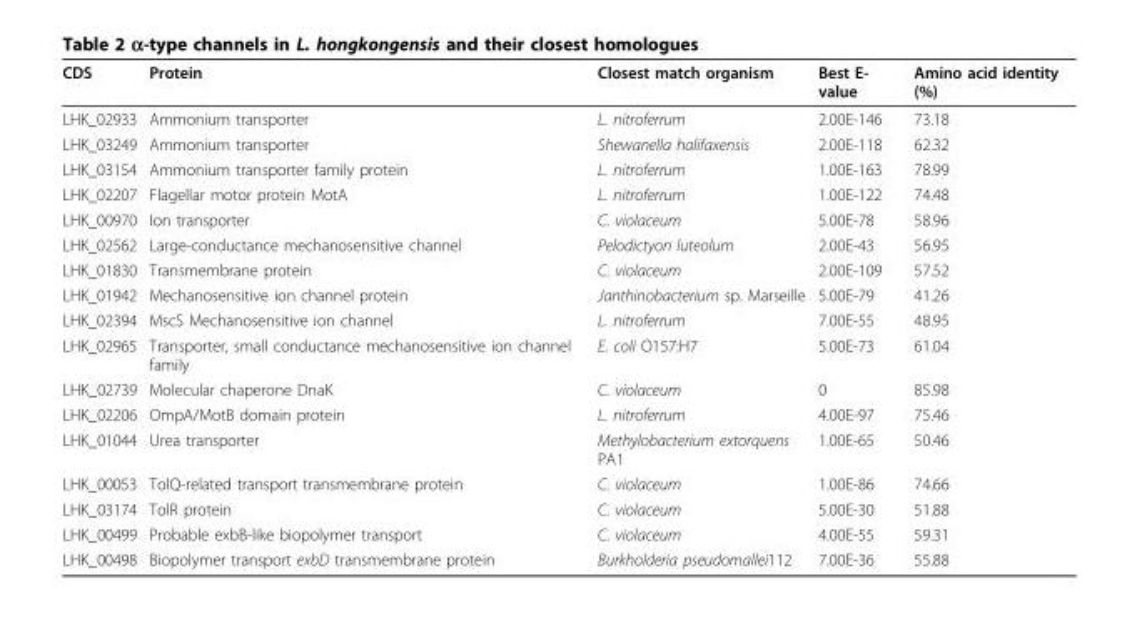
<table><thead><tr><td>CDS</td><td>Protein</td><td>Closest match organism</td><td>Best E- value</td><td>Amino acid identity (%)</td></tr></thead><tbody><tr><td>LHK_02933</td><td>Ammonium transporter</td><td>L. nitroferrum</td><td>2.00E-146</td><td>73.18</td></tr><tr><td>LHK_03249</td><td>Ammonium transporter</td><td>Shewanella halifaxensis</td><td>2.00E-118</td><td>62.32</td></tr><tr><td>LHK_03154</td><td>Ammonium transporter family protein</td><td>L. nitroferrum</td><td>1.00E-163</td><td>78.99</td></tr><tr><td>LHK_02207</td><td>Flagellar motor protein MotA</td><td>L. nitroferrum</td><td>1.00E-122</td><td>74.48</td></tr><tr><td>LHK_00970</td><td>Ion transporter</td><td>C. violaceum</td><td>5.00E-78</td><td>58.96</td></tr><tr><td>LHK_02562</td><td>Large-conductance mechanosensitive channel</td><td>Pelodictyon luteolum</td><td>2.00E-43</td><td>56.95</td></tr><tr><td>LHK_01830</td><td>Transmembrane protein</td><td>C. violaceum</td><td>2.00E-109</td><td>57.52</td></tr><tr><td>LHK_01942</td><td>Mechanosensitive ion channel protein</td><td>Janthinobacterium sp. Marseille</td><td>5.00E-79</td><td>41.26</td></tr><tr><td>LHK_02394</td><td>MscS Mechanosensitive ion channel</td><td>L. nitroferrum</td><td>7.00E-55</td><td>48.95</td></tr><tr><td>LHK_02965</td><td>Transporter, small conductance mechanosensitive ion channel family</td><td>E. coli O157:H7</td><td>5.00E-73</td><td>61.04</td></tr><tr><td>LHK_02739</td><td>Molecular chaperone DnaK</td><td>C. violaceum</td><td>0</td><td>85.98</td></tr><tr><td>LHK_02206</td><td>OmpA/MotB domain protein</td><td>L. nitroferrum</td><td>4.00E-97</td><td>75.46</td></tr><tr><td>LHK_01044</td><td>Urea transporter</td><td>Methylobacterium extorquens PA1</td><td>1.00E-65</td><td>50.46</td></tr><tr><td>LHK_00053</td><td>TolQ-related transport transmembrane protein</td><td>C. violaceum</td><td>1.00E-86</td><td>74.66</td></tr><tr><td>LHK_03174</td><td>TolR protein</td><td>C. violaceum</td><td>5.00E-30</td><td>51.88</td></tr><tr><td>LHK_00499</td><td>Probable exbB-like biopolymer transport</td><td>C. violaceum</td><td>4.00E-55</td><td>59.31</td></tr><tr><td>LHK_00498</td><td>Biopolymer transport exbD transmembrane protein</td><td>Burkholderia pseudomallei112</td><td>7.00E-36</td><td>55.88</td></tr></tbody></table>